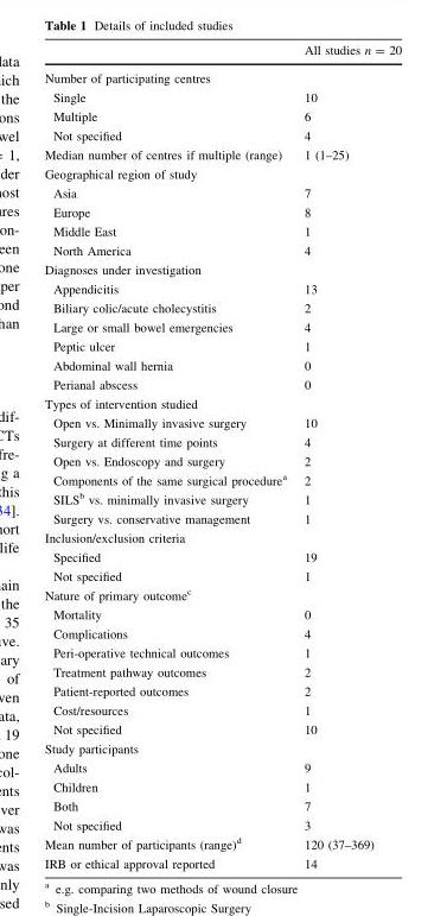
<table><thead><tr><td></td><td>All studies n = 20</td></tr></thead><tbody><tr><td colspan="2">Number of participating centres</td></tr><tr><td>Single</td><td>10</td></tr><tr><td>Multiple</td><td>6</td></tr><tr><td>Not specified</td><td>4</td></tr><tr><td>Median number of centres if multiple (range)</td><td>1 (1–25)</td></tr><tr><td colspan="2">Geographical region of study</td></tr><tr><td>Asia</td><td>7</td></tr><tr><td>Europe</td><td>8</td></tr><tr><td>Middle East</td><td>1</td></tr><tr><td>North America</td><td>4</td></tr><tr><td colspan="2">Diagnoses under investigation</td></tr><tr><td>Appendicitis</td><td>13</td></tr><tr><td>Biliary colic/acute cholecystitis</td><td>2</td></tr><tr><td>Large or small bowel emergencies</td><td>4</td></tr><tr><td>Peptic ulcer</td><td>1</td></tr><tr><td>Abdominal wall hernia</td><td>0</td></tr><tr><td>Perianal abscess</td><td>0</td></tr><tr><td colspan="2">Types of intervention studied</td></tr><tr><td>Open vs. Minimally invasive surgery</td><td>10</td></tr><tr><td>Surgery at different time points</td><td>4</td></tr><tr><td>Open vs. Endoscopy and surgery</td><td>2</td></tr><tr><td>Components of the same surgical procedure<sup>a</sup></td><td>2</td></tr><tr><td>SILS<sup>b</sup> vs. minimally invasive surgery</td><td>1</td></tr><tr><td>Surgery vs. conservative management</td><td>1</td></tr><tr><td colspan="2">Inclusion/exclusion criteria</td></tr><tr><td>Specified</td><td>19</td></tr><tr><td>Not specified</td><td>1</td></tr><tr><td colspan="2">Nature of primary outcome<sup>c</sup></td></tr><tr><td>Mortality</td><td>0</td></tr><tr><td>Complications</td><td>4</td></tr><tr><td>Peri-operative technical outcomes</td><td>1</td></tr><tr><td>Treatment pathway outcomes</td><td>2</td></tr><tr><td>Patient-reported outcomes</td><td>2</td></tr><tr><td>Cost/resources</td><td>1</td></tr><tr><td>Not specified</td><td>10</td></tr><tr><td colspan="2">Study participants</td></tr><tr><td>Adults</td><td>9</td></tr><tr><td>Children</td><td>1</td></tr><tr><td>Both</td><td>7</td></tr><tr><td>Not specified</td><td>3</td></tr><tr><td>Mean number of participants (range)<sup>d</sup></td><td>120 (37–369)</td></tr><tr><td>IRB or ethical approval reported</td><td>14</td></tr></tbody></table>